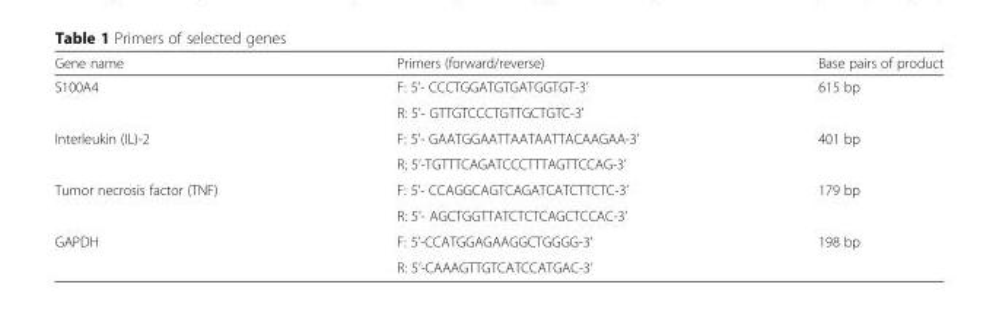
<table><thead><tr><td>Gene name</td><td>Primers (forward/reverse)</td><td>Base pairs of product</td></tr></thead><tbody><tr><td rowspan="2">S100A4</td><td>F: 5’- CCCTGGATGTGATGGTGT-3’</td><td rowspan="2">615 bp</td></tr><tr><td>R: 5’- GTTGTCCCTGTTGCTGTC-3’</td></tr><tr><td rowspan="2">Interleukin (IL)-2</td><td>F: 5’- GAATGGAATTAATAATTACAAGAA-3’</td><td rowspan="2">401 bp</td></tr><tr><td>R; 5’-TGTTTCAGATCCCTTTAGTTCCAG-3’</td></tr><tr><td rowspan="2">Tumor necrosis factor (TNF)</td><td>F: 5’- CCAGGCAGTCAGATCATCTTCTC-3’</td><td rowspan="2">179 bp</td></tr><tr><td>R: 5’- AGCTGGTTATCTCTCAGCTCCAC-3’</td></tr><tr><td rowspan="2">GAPDH</td><td>F: 5’-CCATGGAGAAGGCTGGGG-3’</td><td rowspan="2">198 bp</td></tr><tr><td>R: 5’-CAAAGTTGTCATCCATGAC-3’</td></tr></tbody></table>